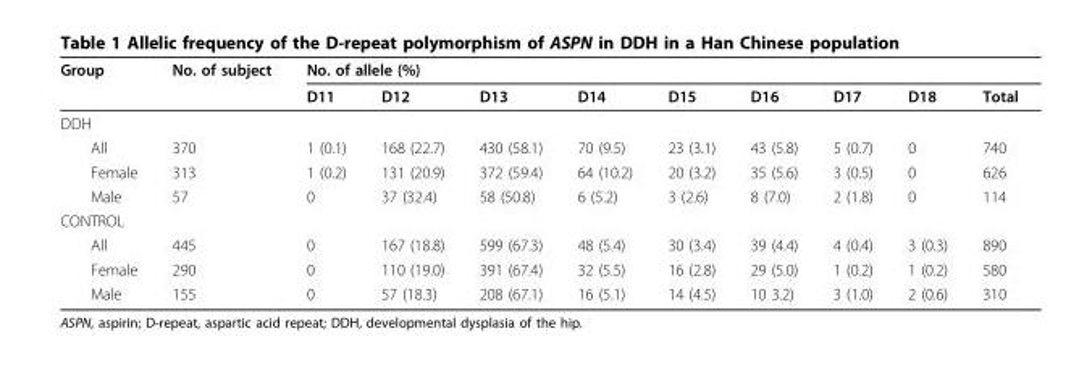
<table><thead><tr><td rowspan="2">Group</td><td rowspan="2">No. of subject</td><td colspan="9">No. of allele (%)</td></tr><tr><td>D11</td><td>D12</td><td>D13</td><td>D14</td><td>D15</td><td>D16</td><td>D17</td><td>D18</td><td>Total</td></tr></thead><tbody><tr><td colspan="11">DDH</td></tr><tr><td>All</td><td>370</td><td>1 (0.1)</td><td>168 (22.7)</td><td>430 (58.1)</td><td>70 (9.5)</td><td>23 (3.1)</td><td>43 (5.8)</td><td>5 (0.7)</td><td>0</td><td>740</td></tr><tr><td>Female</td><td>313</td><td>1 (0.2)</td><td>131 (20.9)</td><td>372 (59.4)</td><td>64 (10.2)</td><td>20 (3.2)</td><td>35 (5.6)</td><td>3 (0.5)</td><td>0</td><td>626</td></tr><tr><td>Male</td><td>57</td><td>0</td><td>37 (32.4)</td><td>58 (50.8)</td><td>6 (5.2)</td><td>3 (2.6)</td><td>8 (7.0)</td><td>2 (1.8)</td><td>0</td><td>114</td></tr><tr><td colspan="11">CONTROL</td></tr><tr><td>All</td><td>445</td><td>0</td><td>167 (18.8)</td><td>599 (67.3)</td><td>48 (5.4)</td><td>30 (3.4)</td><td>39 (4.4)</td><td>4 (0.4)</td><td>3 (0.3)</td><td>890</td></tr><tr><td>Female</td><td>290</td><td>0</td><td>110 (19.0)</td><td>391 (67.4)</td><td>32 (5.5)</td><td>16 (2.8)</td><td>29 (5.0)</td><td>1 (0.2)</td><td>1 (0.2)</td><td>580</td></tr><tr><td>Male</td><td>155</td><td>0</td><td>57 (18.3)</td><td>208 (67.1)</td><td>16 (5.1)</td><td>14 (4.5)</td><td>10 3.2)</td><td>3 (1.0)</td><td>2 (0.6)</td><td>310</td></tr></tbody></table>